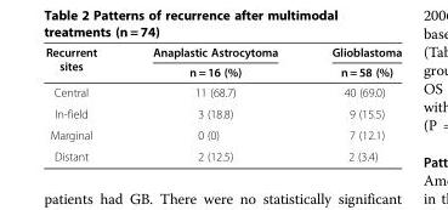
<table><thead><tr><td rowspan="2">Recurrent sites</td><td rowspan="2">Anaplastic Astrocytoma n = 16 (%)</td><td rowspan="2">Glioblastoma n = 58 (%)</td></tr><tr></tr></thead><tbody><tr><td>Central</td><td>11 (68.7)</td><td>40 (69.0)</td></tr><tr><td>In-field</td><td>3 (18.8)</td><td>9 (15.5)</td></tr><tr><td>Marginal</td><td>0 (0)</td><td>7 (12.1)</td></tr><tr><td>Distant</td><td>2 (12.5)</td><td>2 (3.4)</td></tr></tbody></table>